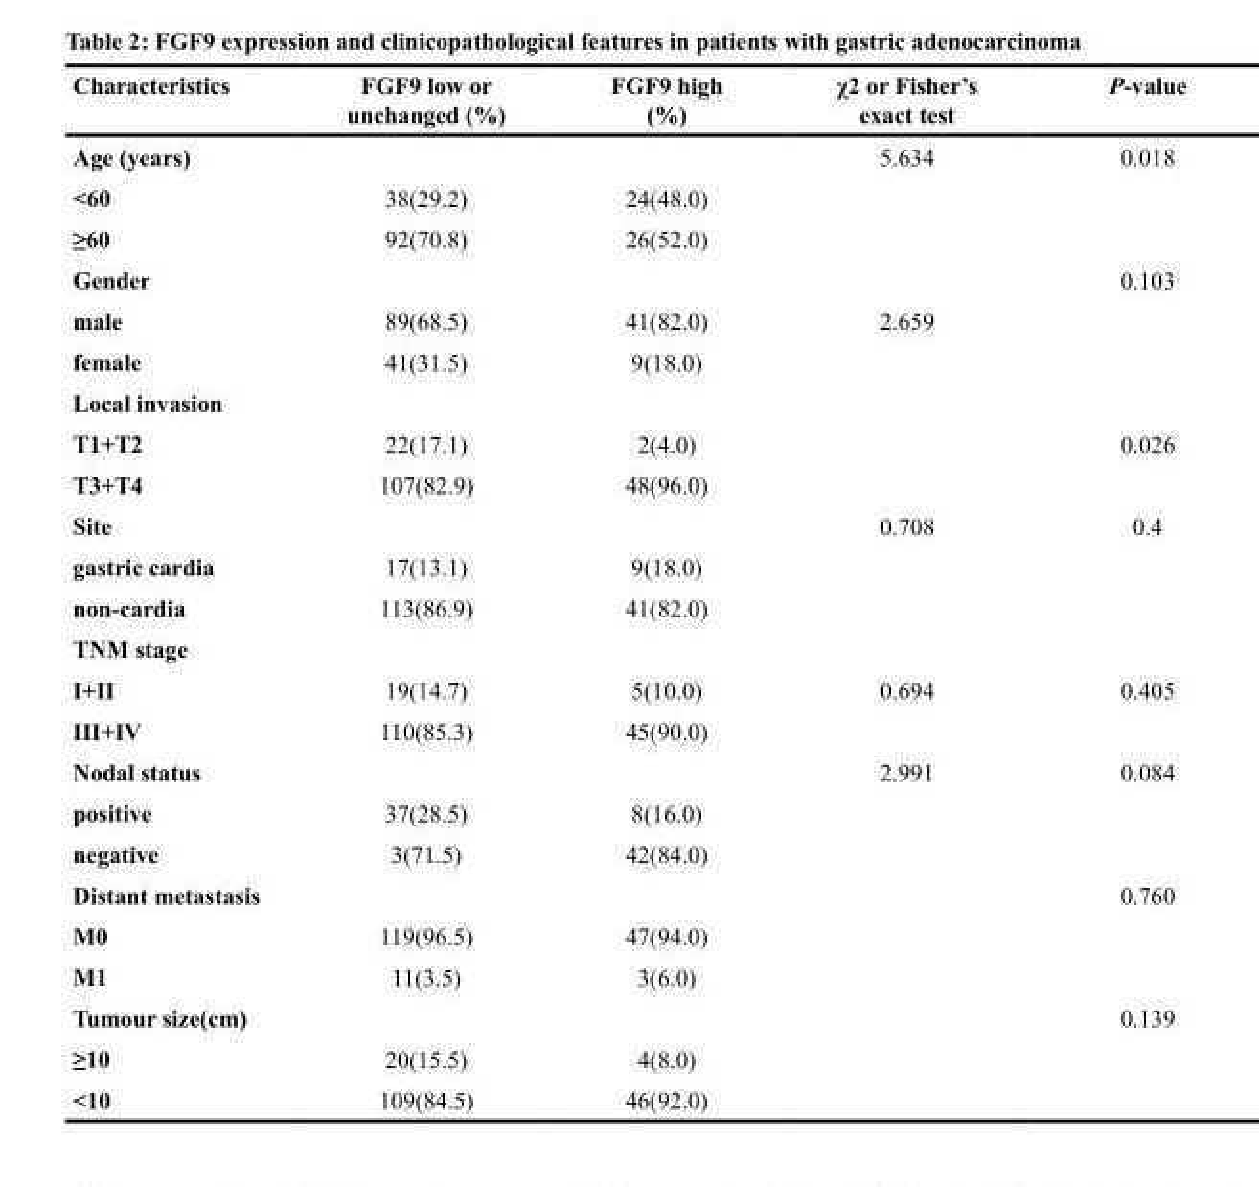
<table><thead><tr><td>Characteristics</td><td>FGF9 low or unchanged (%)</td><td>FGF9 high (%)</td><td>χ2 or Fisher’s exact test</td><td>P-value</td></tr></thead><tbody><tr><td>Age (years)</td><td></td><td></td><td>5.634</td><td>0.018</td></tr><tr><td>&lt;60</td><td>38(29.2)</td><td>24(48.0)</td><td></td><td></td></tr><tr><td>≥60</td><td>92(70.8)</td><td>26(52.0)</td><td></td><td></td></tr><tr><td>Gender</td><td></td><td></td><td></td><td>0.103</td></tr><tr><td>male</td><td>89(68.5)</td><td>41(82.0)</td><td>2.659</td><td></td></tr><tr><td>female</td><td>41(31.5)</td><td>9(18.0)</td><td></td><td></td></tr><tr><td colspan="5">Local invasion</td></tr><tr><td>T1+T2</td><td>22(17.1)</td><td>2(4.0)</td><td></td><td>0.026</td></tr><tr><td>T3+T4</td><td>107(82.9)</td><td>48(96.0)</td><td></td><td></td></tr><tr><td>Site</td><td></td><td></td><td>0.708</td><td>0.4</td></tr><tr><td>gastric cardia</td><td>17(13.1)</td><td>9(18.0)</td><td></td><td></td></tr><tr><td>non-cardia</td><td>113(86.9)</td><td>41(82.0)</td><td></td><td></td></tr><tr><td colspan="5">TNM stage</td></tr><tr><td>I+II</td><td>19(14.7)</td><td>5(10.0)</td><td>0.694</td><td>0.405</td></tr><tr><td>III+IV</td><td>110(85.3)</td><td>45(90.0)</td><td></td><td></td></tr><tr><td>Nodal status</td><td></td><td></td><td>2.991</td><td>0.084</td></tr><tr><td>positive</td><td>37(28.5)</td><td>8(16.0)</td><td></td><td></td></tr><tr><td>negative</td><td>3(71.5)</td><td>42(84.0)</td><td></td><td></td></tr><tr><td>Distant metastasis</td><td></td><td></td><td></td><td>0.760</td></tr><tr><td>M0</td><td>119(96.5)</td><td>47(94.0)</td><td></td><td></td></tr><tr><td>M1</td><td>11(3.5)</td><td>3(6.0)</td><td></td><td></td></tr><tr><td>Tumour size(cm)</td><td></td><td></td><td></td><td>0.139</td></tr><tr><td>≥10</td><td>20(15.5)</td><td>4(8.0)</td><td></td><td></td></tr><tr><td>&lt;10</td><td>109(84.5)</td><td>46(92.0)</td><td></td><td></td></tr></tbody></table>